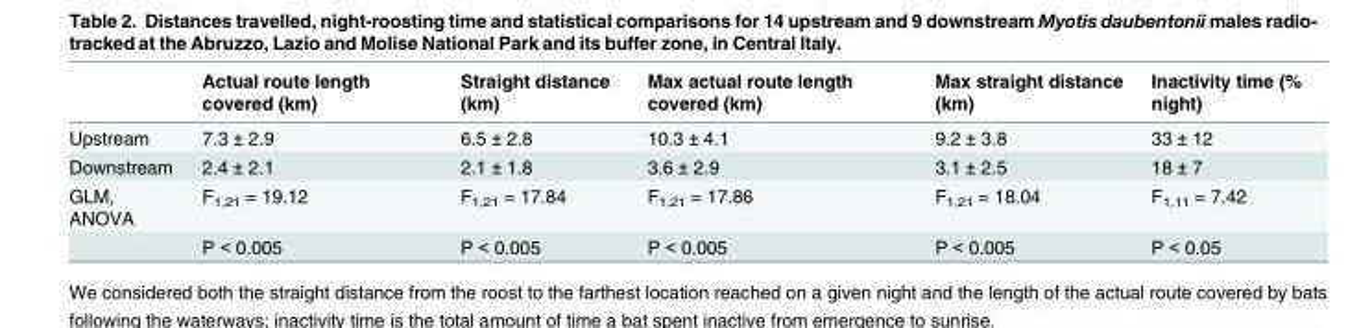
<table><thead><tr><td></td><td>Actual route length covered (km)</td><td>Straight distance (km)</td><td>Max actual route length covered (km)</td><td>Max straight distance (km)</td><td>Inactivity time (% night)</td></tr></thead><tbody><tr><td>Upstream</td><td>7.3 ± 2.9</td><td>6.5 ± 2.8</td><td>10.3 ± 4.1</td><td>9.2 ± 3.8</td><td>33 ± 12</td></tr><tr><td>Downstream</td><td>2.4 ± 2.1</td><td>2.1 ± 1.8</td><td>3.6 ± 2.9</td><td>3.1 ± 2.5</td><td>18 ± 7</td></tr><tr><td rowspan="2">GLM, ANOVA</td><td>F<sub>1,21</sub> = 19.12</td><td>F<sub>1,21</sub> = 17.84</td><td>F<sub>1,21</sub> = 17.86</td><td>F<sub>1,21</sub> = 18.04</td><td>F<sub>1,11</sub> = 7.42</td></tr><tr><td>P &lt; 0.005</td><td>P &lt; 0.005</td><td>P &lt; 0.005</td><td>P &lt; 0.005</td><td>P &lt; 0.05</td></tr></tbody></table>